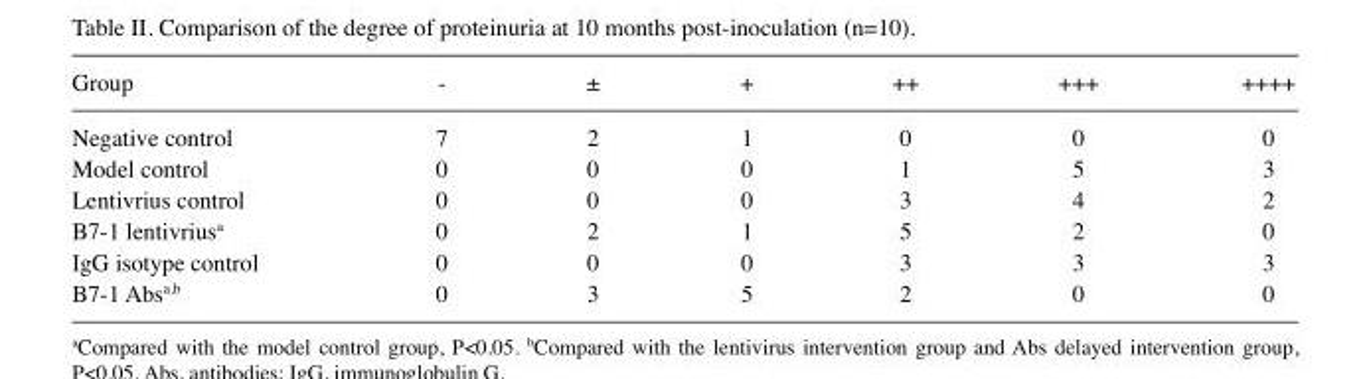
<table><thead><tr><td>Group</td><td>-</td><td>±</td><td>+</td><td>++</td><td>+++</td><td>++++</td></tr></thead><tbody><tr><td>Negative control</td><td>7</td><td>2</td><td>1</td><td>0</td><td>0</td><td>0</td></tr><tr><td>Model control</td><td>0</td><td>0</td><td>0</td><td>1</td><td>5</td><td>3</td></tr><tr><td>Lentivrius control</td><td>0</td><td>0</td><td>0</td><td>3</td><td>4</td><td>2</td></tr><tr><td>B7-1 lentivrius<sup>a</sup></td><td>0</td><td>2</td><td>1</td><td>5</td><td>2</td><td>0</td></tr><tr><td>IgG isotype control</td><td>0</td><td>0</td><td>0</td><td>3</td><td>3</td><td>3</td></tr><tr><td>B7-1 Abs<sup>a,b</sup></td><td>0</td><td>3</td><td>5</td><td>2</td><td>0</td><td>0</td></tr></tbody></table>